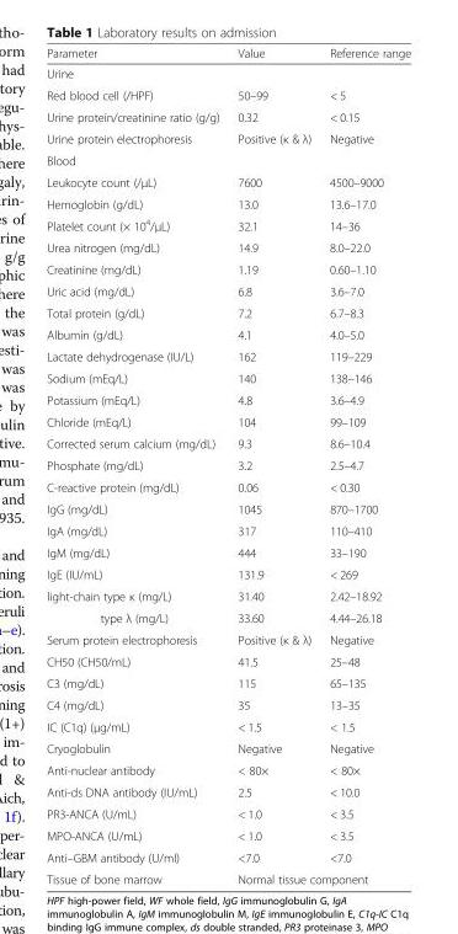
<table><thead><tr><td>Parameter</td><td>Value</td><td>Reference range</td></tr></thead><tbody><tr><td colspan="3">Urine</td></tr><tr><td>Red blood cell (/HPF)</td><td>50–99</td><td>&lt; 5</td></tr><tr><td>Urine protein/creatinine ratio (g/g)</td><td>0.32</td><td>&lt; 0.15</td></tr><tr><td>Urine protein electrophoresis</td><td>Positive (κ &amp; λ)</td><td>Negative</td></tr><tr><td colspan="3">Blood</td></tr><tr><td>Leukocyte count (/μL)</td><td>7600</td><td>4500–9000</td></tr><tr><td>Hemoglobin (g/dL)</td><td>13.0</td><td>13.6–17.0</td></tr><tr><td>Platelet count (× 10<sup>4</sup>/μL)</td><td>32.1</td><td>14–36</td></tr><tr><td>Urea nitrogen (mg/dL)</td><td>14.9</td><td>8.0–22.0</td></tr><tr><td>Creatinine (mg/dL)</td><td>1.19</td><td>0.60–1.10</td></tr><tr><td>Uric acid (mg/dL)</td><td>6.8</td><td>3.6–7.0</td></tr><tr><td>Total protein (g/dL)</td><td>7.2</td><td>6.7–8.3</td></tr><tr><td>Albumin (g/dL)</td><td>4.1</td><td>4.0–5.0</td></tr><tr><td>Lactate dehydrogenase (IU/L)</td><td>162</td><td>119–229</td></tr><tr><td>Sodium (mEq/L)</td><td>140</td><td>138–146</td></tr><tr><td>Potassium (mEq/L)</td><td>4.8</td><td>3.6–4.9</td></tr><tr><td>Chloride (mEq/L)</td><td>104</td><td>99–109</td></tr><tr><td>Corrected serum calcium (mg/dL)</td><td>9.3</td><td>8.6–10.4</td></tr><tr><td>Phosphate (mg/dL)</td><td>3.2</td><td>2.5–4.7</td></tr><tr><td>C-reactive protein (mg/dL)</td><td>0.06</td><td>&lt; 0.30</td></tr><tr><td>IgG (mg/dL)</td><td>1045</td><td>870–1700</td></tr><tr><td>IgA (mg/dL)</td><td>317</td><td>110–410</td></tr><tr><td>IgM (mg/dL)</td><td>444</td><td>33–190</td></tr><tr><td>IgE (IU/mL)</td><td>131.9</td><td>&lt; 269</td></tr><tr><td>light-chain type κ (mg/L)</td><td>31.40</td><td>2.42–18.92</td></tr><tr><td>type λ (mg/L)</td><td>33.60</td><td>4.44–26.18</td></tr><tr><td>Serum protein electrophoresis</td><td>Positive (κ &amp; λ)</td><td>Negative</td></tr><tr><td>CH50 (CH50/mL)</td><td>41.5</td><td>25–48</td></tr><tr><td>C3 (mg/dL)</td><td>115</td><td>65–135</td></tr><tr><td>C4 (mg/dL)</td><td>35</td><td>13–35</td></tr><tr><td>IC (C1q) (μg/mL)</td><td>&lt; 1.5</td><td>&lt; 1.5</td></tr><tr><td>Cryoglobulin</td><td>Negative</td><td>Negative</td></tr><tr><td>Anti-nuclear antibody</td><td>&lt; 80×</td><td>&lt; 80×</td></tr><tr><td>Anti-ds DNA antibody (IU/mL)</td><td>2.5</td><td>&lt; 10.0</td></tr><tr><td>PR3-ANCA (U/mL)</td><td>&lt; 1.0</td><td>&lt; 3.5</td></tr><tr><td>MPO-ANCA (U/mL)</td><td>&lt; 1.0</td><td>&lt; 3.5</td></tr><tr><td>Anti–GBM antibody (U/ml)</td><td>&lt;7.0</td><td>&lt;7.0</td></tr><tr><td>Tissue of bone marrow</td><td colspan="2">Normal tissue component</td></tr></tbody></table>